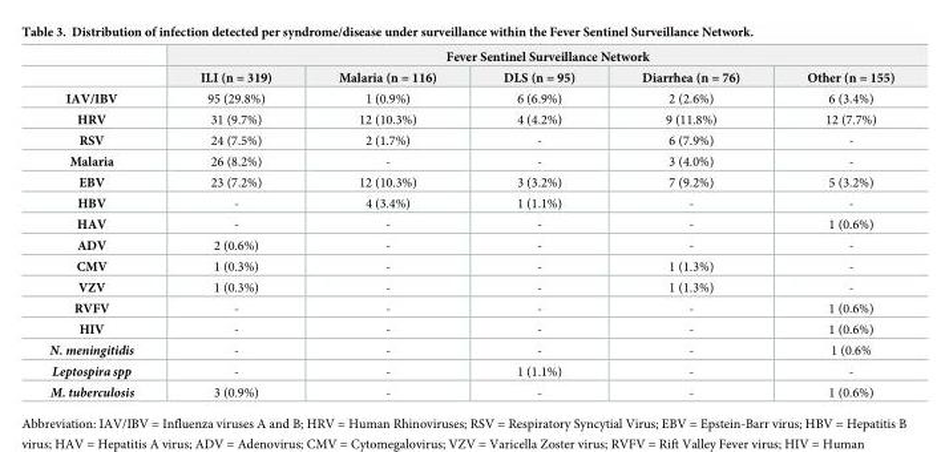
<table><thead><tr><td rowspan="2"></td><td colspan="5">Fever Sentinel Surveillance Network</td></tr><tr><td>ILI (n = 319)</td><td>Malaria (n = 116)</td><td>DLS (n = 95)</td><td>Diarrhea (n = 76)</td><td>Other (n = 155)</td></tr></thead><tbody><tr><td>IAV/IBV</td><td>95 (29.8%)</td><td>1 (0.9%)</td><td>6 (6.9%)</td><td>2 (2.6%)</td><td>6 (3.4%)</td></tr><tr><td>HRV</td><td>31 (9.7%)</td><td>12 (10.3%)</td><td>4 (4.2%)</td><td>9 (11.8%)</td><td>12 (7.7%)</td></tr><tr><td>RSV</td><td>24 (7.5%)</td><td>2 (1.7%)</td><td>-</td><td>6 (7.9%)</td><td>-</td></tr><tr><td>Malaria</td><td>26 (8.2%)</td><td>-</td><td>-</td><td>3 (4.0%)</td><td>-</td></tr><tr><td>EBV</td><td>23 (7.2%)</td><td>12 (10.3%)</td><td>3 (3.2%)</td><td>7 (9.2%)</td><td>5 (3.2%)</td></tr><tr><td>HBV</td><td>-</td><td>4 (3.4%)</td><td>1 (1.1%)</td><td>-</td><td>-</td></tr><tr><td>HAV</td><td>-</td><td>-</td><td>-</td><td>-</td><td>1 (0.6%)</td></tr><tr><td>ADV</td><td>2 (0.6%)</td><td>-</td><td>-</td><td>-</td><td>-</td></tr><tr><td>CMV</td><td>1 (0.3%)</td><td>-</td><td>-</td><td>1 (1.3%)</td><td>-</td></tr><tr><td>VZV</td><td>1 (0.3%)</td><td>-</td><td>-</td><td>1 (1.3%)</td><td>-</td></tr><tr><td>RVFV</td><td>-</td><td>-</td><td>-</td><td>-</td><td>1 (0.6%)</td></tr><tr><td>HIV</td><td>-</td><td>-</td><td>-</td><td>-</td><td>1 (0.6%)</td></tr><tr><td>N. meningitidis</td><td>-</td><td>-</td><td>-</td><td>-</td><td>1 (0.6%</td></tr><tr><td>Leptospira spp</td><td>-</td><td>-</td><td>1 (1.1%)</td><td>-</td><td>-</td></tr><tr><td>M. tuberculosis</td><td>3 (0.9%)</td><td>-</td><td>-</td><td>-</td><td>1 (0.6%)</td></tr></tbody></table>